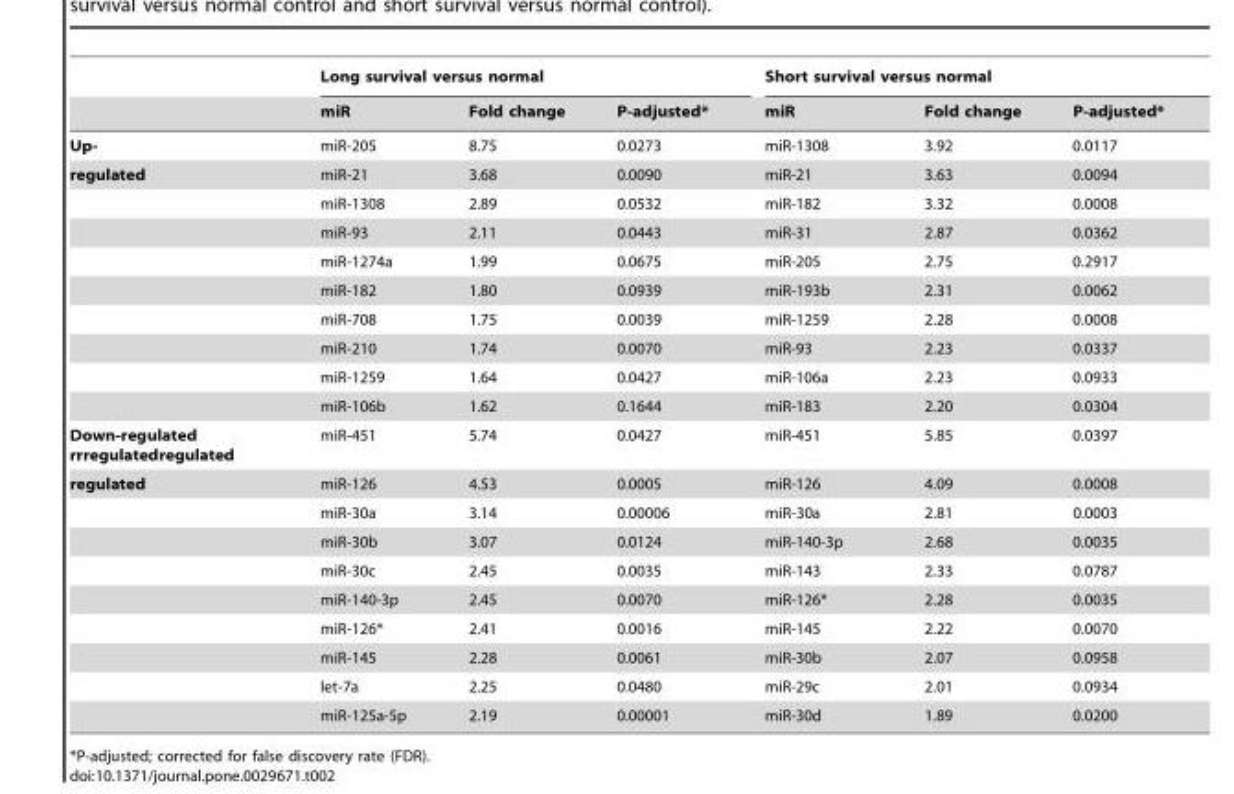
<table><thead><tr><td rowspan="2"></td><td colspan="3">Long survival versus normal</td><td colspan="3">Short survival versus normal</td></tr><tr><td>miR</td><td>Fold change</td><td>P-adjusted*</td><td>miR</td><td>Fold change</td><td>P-adjusted*</td></tr></thead><tbody><tr><td>Up-</td><td>miR-205</td><td>8.75</td><td>0.0273</td><td>miR-1308</td><td>3.92</td><td>0.0117</td></tr><tr><td rowspan="9">regulated</td><td>miR-21</td><td>3.68</td><td>0.0090</td><td>miR-21</td><td>3.63</td><td>0.0094</td></tr><tr><td>miR-1308</td><td>2.89</td><td>0.0532</td><td>miR-182</td><td>3.32</td><td>0.0008</td></tr><tr><td>miR-93</td><td>2.11</td><td>0.0443</td><td>miR-31</td><td>2.87</td><td>0.0362</td></tr><tr><td>miR-1274a</td><td>1.99</td><td>0.0675</td><td>miR-205</td><td>2.75</td><td>0.2917</td></tr><tr><td>miR-182</td><td>1.80</td><td>0.0939</td><td>miR-193b</td><td>2.31</td><td>0.0062</td></tr><tr><td>miR-708</td><td>1.75</td><td>0.0039</td><td>miR-1259</td><td>2.28</td><td>0.0008</td></tr><tr><td>miR-210</td><td>1.74</td><td>0.0070</td><td>miR-93</td><td>2.23</td><td>0.0337</td></tr><tr><td>miR-1259</td><td>1.64</td><td>0.0427</td><td>miR-106a</td><td>2.23</td><td>0.0933</td></tr><tr><td>miR-106b</td><td>1.62</td><td>0.1644</td><td>miR-183</td><td>2.20</td><td>0.0304</td></tr><tr><td>Down-regulated rrregulatedregulated</td><td>miR-451</td><td>5.74</td><td>0.0427</td><td>miR-451</td><td>5.85</td><td>0.0397</td></tr><tr><td rowspan="9">regulated</td><td>miR-126</td><td>4.53</td><td>0.0005</td><td>miR-126</td><td>4.09</td><td>0.0008</td></tr><tr><td>miR-30a</td><td>3.14</td><td>0.00006</td><td>miR-30a</td><td>2.81</td><td>0.0003</td></tr><tr><td>miR-30b</td><td>3.07</td><td>0.0124</td><td>miR-140-3p</td><td>2.68</td><td>0.0035</td></tr><tr><td>miR-30c</td><td>2.45</td><td>0.0035</td><td>miR-143</td><td>2.33</td><td>0.0787</td></tr><tr><td>miR-140-3p</td><td>2.45</td><td>0.0070</td><td>miR-126*</td><td>2.28</td><td>0.0035</td></tr><tr><td>miR-126*</td><td>2.41</td><td>0.0016</td><td>miR-145</td><td>2.22</td><td>0.0070</td></tr><tr><td>miR-145</td><td>2.28</td><td>0.0061</td><td>miR-30b</td><td>2.07</td><td>0.0958</td></tr><tr><td>let-7a</td><td>2.25</td><td>0.0480</td><td>miR-29c</td><td>2.01</td><td>0.0934</td></tr><tr><td>miR-125a-5p</td><td>2.19</td><td>0.00001</td><td>miR-30d</td><td>1.89</td><td>0.0200</td></tr></tbody></table>